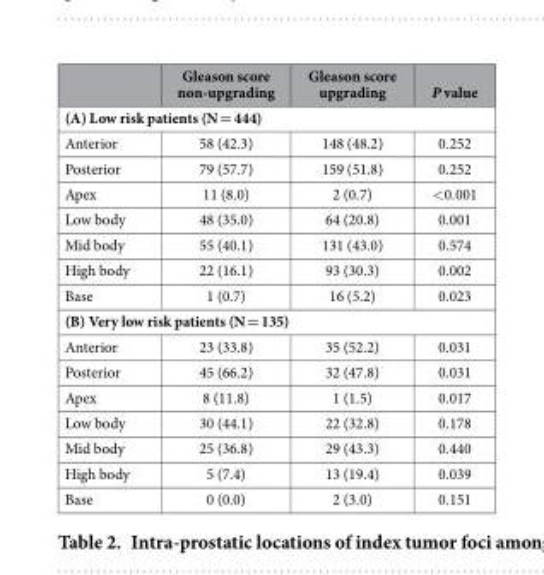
<table><thead><tr><td></td><td>Gleason score non-upgrading</td><td>Gleason score upgrading</td><td>P value</td></tr></thead><tbody><tr><td colspan="4">(A) Low risk patients (N = 444)</td></tr><tr><td>Anterior</td><td>58 (42.3)</td><td>148 (48.2)</td><td>0.252</td></tr><tr><td>Posterior</td><td>79 (57.7)</td><td>159 (51.8)</td><td>0.252</td></tr><tr><td>Apex</td><td>11 (8.0)</td><td>2 (0.7)</td><td>&lt; 0.001</td></tr><tr><td>Low body</td><td>48 (35.0)</td><td>64 (20.8)</td><td>0.001</td></tr><tr><td>Mid body</td><td>55 (40.1)</td><td>131 (43.0)</td><td>0.574</td></tr><tr><td>High body</td><td>22 (16.1)</td><td>93 (30.3)</td><td>0.002</td></tr><tr><td>Base</td><td>1 (0.7)</td><td>16 (5.2)</td><td>0.023</td></tr><tr><td colspan="4">(B) Very low risk patients (N = 135)</td></tr><tr><td>Anterior</td><td>23 (33.8)</td><td>35 (52.2)</td><td>0.031</td></tr><tr><td>Posterior</td><td>45 (66.2)</td><td>32 (47.8)</td><td>0.031</td></tr><tr><td>Apex</td><td>8 (11.8)</td><td>1 (1.5)</td><td>0.017</td></tr><tr><td>Low body</td><td>30 (44.1)</td><td>22 (32.8)</td><td>0.178</td></tr><tr><td>Mid body</td><td>25 (36.8)</td><td>29 (43.3)</td><td>0.440</td></tr><tr><td>High body</td><td>5 (7.4)</td><td>13 (19.4)</td><td>0.039</td></tr><tr><td>Base</td><td>0 (0.0)</td><td>2 (3.0)</td><td>0.151</td></tr></tbody></table>